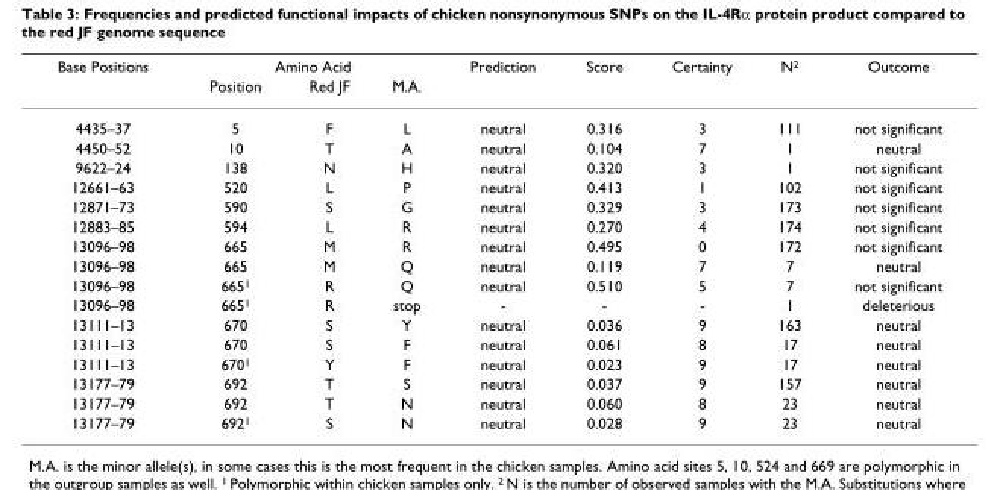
<table><thead><tr><td rowspan="2">Base Positions</td><td colspan="3">Amino Acid</td><td rowspan="2">Prediction</td><td rowspan="2">Score</td><td rowspan="2">Certainty</td><td rowspan="2">N<sup>2</sup></td><td rowspan="2">Outcome</td></tr><tr><td>Position</td><td>Red JF</td><td>M.A.</td></tr></thead><tbody><tr><td>4435–37</td><td>5</td><td>F</td><td>L</td><td>neutral</td><td>0.316</td><td>3</td><td>111</td><td>not significant</td></tr><tr><td>4450–52</td><td>10</td><td>T</td><td>A</td><td>neutral</td><td>0.104</td><td>7</td><td>1</td><td>neutral</td></tr><tr><td>9622–24</td><td>138</td><td>N</td><td>H</td><td>neutral</td><td>0.320</td><td>3</td><td>1</td><td>not significant</td></tr><tr><td>12661–63</td><td>520</td><td>L</td><td>P</td><td>neutral</td><td>0.413</td><td>1</td><td>102</td><td>not significant</td></tr><tr><td>12871–73</td><td>590</td><td>S</td><td>G</td><td>neutral</td><td>0.329</td><td>3</td><td>173</td><td>not significant</td></tr><tr><td>12883–85</td><td>594</td><td>L</td><td>R</td><td>neutral</td><td>0.270</td><td>4</td><td>174</td><td>not significant</td></tr><tr><td>13096–98</td><td>665</td><td>M</td><td>R</td><td>neutral</td><td>0.495</td><td>0</td><td>172</td><td>not significant</td></tr><tr><td>13096–98</td><td>665</td><td>M</td><td>Q</td><td>neutral</td><td>0.119</td><td>7</td><td>7</td><td>neutral</td></tr><tr><td>13096–98</td><td>665<sup>1</sup></td><td>R</td><td>Q</td><td>neutral</td><td>0.510</td><td>5</td><td>7</td><td>not significant</td></tr><tr><td>13096–98</td><td>665<sup>1</sup></td><td>R</td><td>stop</td><td>-</td><td>-</td><td>-</td><td>1</td><td>deleterious</td></tr><tr><td>13111–13</td><td>670</td><td>S</td><td>Y</td><td>neutral</td><td>0.036</td><td>9</td><td>163</td><td>neutral</td></tr><tr><td>13111–13</td><td>670</td><td>S</td><td>F</td><td>neutral</td><td>0.061</td><td>8</td><td>17</td><td>neutral</td></tr><tr><td>13111–13</td><td>670<sup>1</sup></td><td>Y</td><td>F</td><td>neutral</td><td>0.023</td><td>9</td><td>17</td><td>neutral</td></tr><tr><td>13177–79</td><td>692</td><td>T</td><td>S</td><td>neutral</td><td>0.037</td><td>9</td><td>157</td><td>neutral</td></tr><tr><td>13177–79</td><td>692</td><td>T</td><td>N</td><td>neutral</td><td>0.060</td><td>8</td><td>23</td><td>neutral</td></tr><tr><td>13177–79</td><td>692<sup>1</sup></td><td>S</td><td>N</td><td>neutral</td><td>0.028</td><td>9</td><td>23</td><td>neutral</td></tr></tbody></table>